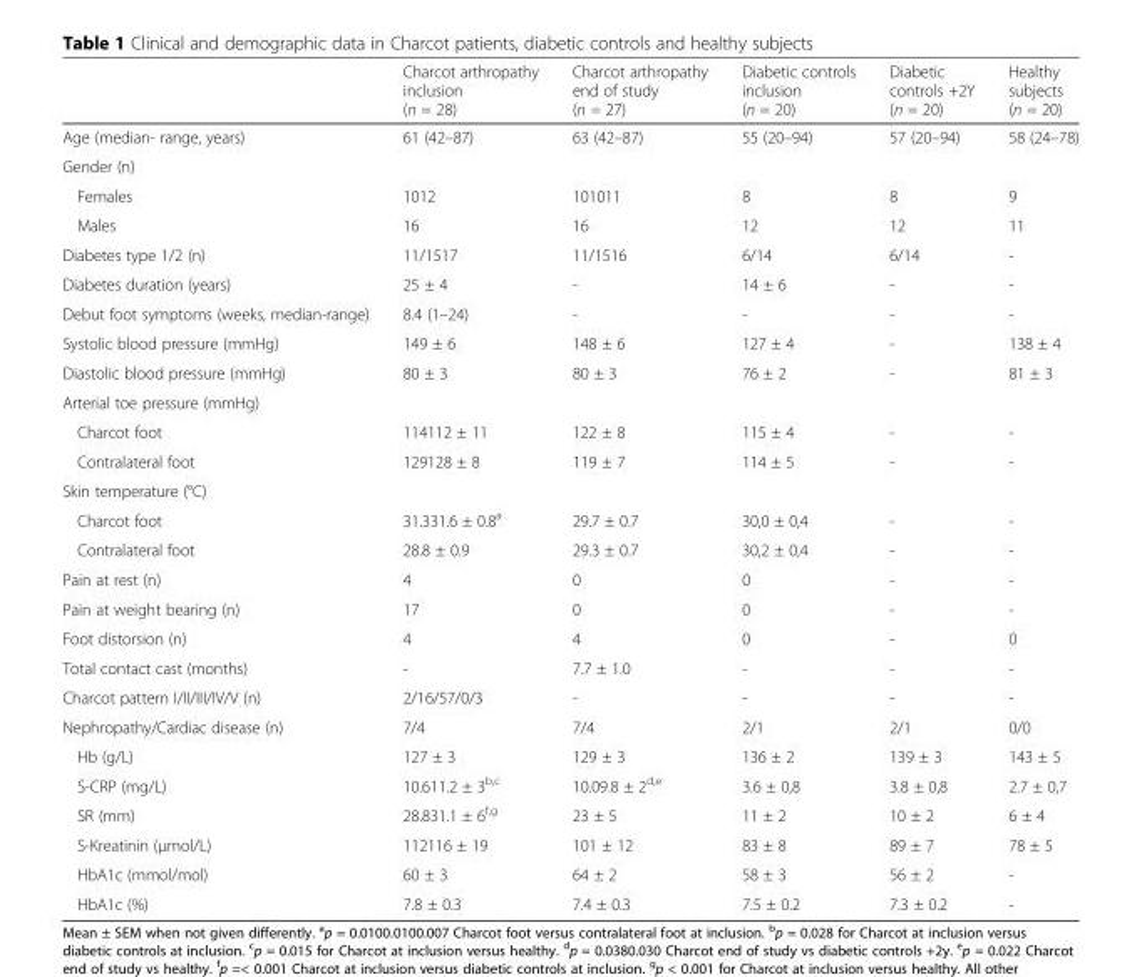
<table><thead><tr><td></td><td>Charcot arthropathy inclusion (n = 28)</td><td>Charcot arthropathy end of study (n = 27)</td><td>Diabetic controls inclusion (n = 20)</td><td>Diabetic controls +2Y (n = 20)</td><td>Healthy subjects (n = 20)</td></tr></thead><tbody><tr><td>Age (median- range, years)</td><td>61 (42–87)</td><td>63 (42–87)</td><td>55 (20–94)</td><td>57 (20–94)</td><td>58 (24–78)</td></tr><tr><td colspan="6">Gender (n)</td></tr><tr><td>Females</td><td>1012</td><td>101011</td><td>8</td><td>8</td><td>9</td></tr><tr><td>Males</td><td>16</td><td>16</td><td>12</td><td>12</td><td>11</td></tr><tr><td>Diabetes type 1/2 (n)</td><td>11/1517</td><td>11/1516</td><td>6/14</td><td>6/14</td><td>-</td></tr><tr><td>Diabetes duration (years)</td><td>25 ± 4</td><td>-</td><td>14 ± 6</td><td>-</td><td>-</td></tr><tr><td>Debut foot symptoms (weeks, median-range)</td><td>8.4 (1–24)</td><td>-</td><td>-</td><td>-</td><td>-</td></tr><tr><td>Systolic blood pressure (mmHg)</td><td>149 ± 6</td><td>148 ± 6</td><td>127 ± 4</td><td>-</td><td>138 ± 4</td></tr><tr><td>Diastolic blood pressure (mmHg)</td><td>80 ± 3</td><td>80 ± 3</td><td>76 ± 2</td><td>-</td><td>81 ± 3</td></tr><tr><td colspan="6">Arterial toe pressure (mmHg)</td></tr><tr><td>Charcot foot</td><td>114112 ± 11</td><td>122 ± 8</td><td>115 ± 4</td><td>-</td><td>-</td></tr><tr><td>Contralateral foot</td><td>129128 ± 8</td><td>119 ± 7</td><td>114 ± 5</td><td>-</td><td>-</td></tr><tr><td colspan="6">Skin temperature (°C)</td></tr><tr><td>Charcot foot</td><td>31.331.6 ± 0.8<sup>a</sup></td><td>29.7 ± 0.7</td><td>30,0 ± 0,4</td><td>-</td><td>-</td></tr><tr><td>Contralateral foot</td><td>28.8 ± 0.9</td><td>29.3 ± 0.7</td><td>30,2 ± 0,4</td><td>-</td><td>-</td></tr><tr><td>Pain at rest (n)</td><td>4</td><td>0</td><td>0</td><td>-</td><td>-</td></tr><tr><td>Pain at weight bearing (n)</td><td>17</td><td>0</td><td>0</td><td>-</td><td>-</td></tr><tr><td>Foot distorsion (n)</td><td>4</td><td>4</td><td>0</td><td>-</td><td>0</td></tr><tr><td>Total contact cast (months)</td><td>-</td><td>7.7 ± 1.0</td><td>-</td><td>-</td><td>-</td></tr><tr><td>Charcot pattern I/II/III/IV/V (n)</td><td>2/16/57/0/3</td><td>-</td><td>-</td><td>-</td><td>-</td></tr><tr><td>Nephropathy/Cardiac disease (n)</td><td>7/4</td><td>7/4</td><td>2/1</td><td>2/1</td><td>0/0</td></tr><tr><td>Hb (g/L)</td><td>127 ± 3</td><td>129 ± 3</td><td>136 ± 2</td><td>139 ± 3</td><td>143 ± 5</td></tr><tr><td>S-CRP (mg/L)</td><td>10.611.2 ± 3<sup>b,c</sup></td><td>10.09.8 ± 2<sup>d,e</sup></td><td>3.6 ± 0,8</td><td>3.8 ± 0,8</td><td>2.7 ± 0,7</td></tr><tr><td>SR (mm)</td><td>28.831.1 ± 6<sup>f,g</sup></td><td>23 ± 5</td><td>11 ± 2</td><td>10 ± 2</td><td>6 ± 4</td></tr><tr><td>S-Kreatinin (μmol/L)</td><td>112116 ± 19</td><td>101 ± 12</td><td>83 ± 8</td><td>89 ± 7</td><td>78 ± 5</td></tr><tr><td>HbA1c (mmol/mol)</td><td>60 ± 3</td><td>64 ± 2</td><td>58 ± 3</td><td>56 ± 2</td><td>-</td></tr><tr><td>HbA1c (%)</td><td>7.8 ± 0.3</td><td>7.4 ± 0.3</td><td>7.5 ± 0.2</td><td>7.3 ± 0.2</td><td>-</td></tr></tbody></table>